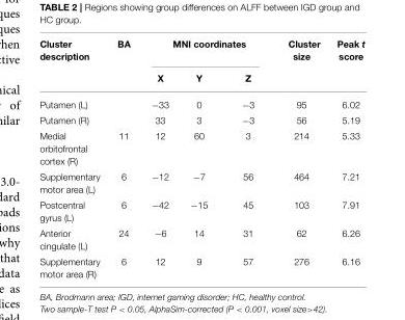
<table><thead><tr><td rowspan="2">Cluster description</td><td rowspan="2">BA</td><td colspan="3">MNI coordinates</td><td rowspan="2">Cluster size</td><td rowspan="2">Peak t score</td></tr><tr><td>X</td><td>Y</td><td>Z</td></tr></thead><tbody><tr><td>Putamen (L)</td><td></td><td>−33</td><td>0</td><td>−3</td><td>95</td><td>6.02</td></tr><tr><td>Putamen (R)</td><td></td><td>33</td><td>3</td><td>−3</td><td>56</td><td>5.19</td></tr><tr><td>Medial orbitofrontal cortex (R)</td><td>11</td><td>12</td><td>60</td><td>3</td><td>214</td><td>5.33</td></tr><tr><td>Supplementary motor area (L)</td><td>6</td><td>−12</td><td>−7</td><td>56</td><td>464</td><td>7.21</td></tr><tr><td>Postcentral gyrus (L)</td><td>6</td><td>−42</td><td>−15</td><td>45</td><td>103</td><td>7.91</td></tr><tr><td>Anterior cingulate (L)</td><td>24</td><td>−6</td><td>14</td><td>31</td><td>62</td><td>6.26</td></tr><tr><td>Supplementary motor area (R)</td><td>6</td><td>12</td><td>9</td><td>57</td><td>276</td><td>6.16</td></tr></tbody></table>